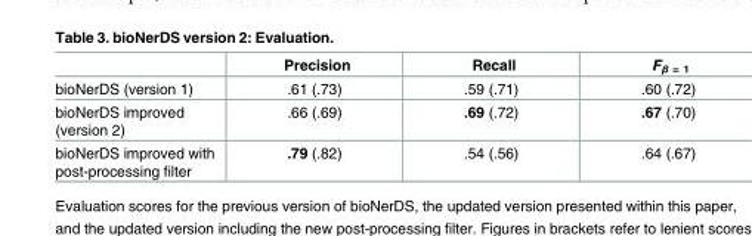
<table><thead><tr><td></td><td>Precision</td><td>Recall</td><td>F<sub>β = 1</sub></td></tr></thead><tbody><tr><td>bioNerDS (version 1)</td><td>.61 (.73)</td><td>.59 (.71)</td><td>.60 (.72)</td></tr><tr><td>bioNerDS improved (version 2)</td><td>.66 (.69)</td><td>.69 (.72)</td><td>.67 (.70)</td></tr><tr><td>bioNerDS improved with post-processing filter</td><td>.79 (.82)</td><td>.54 (.56)</td><td>.64 (.67)</td></tr></tbody></table>